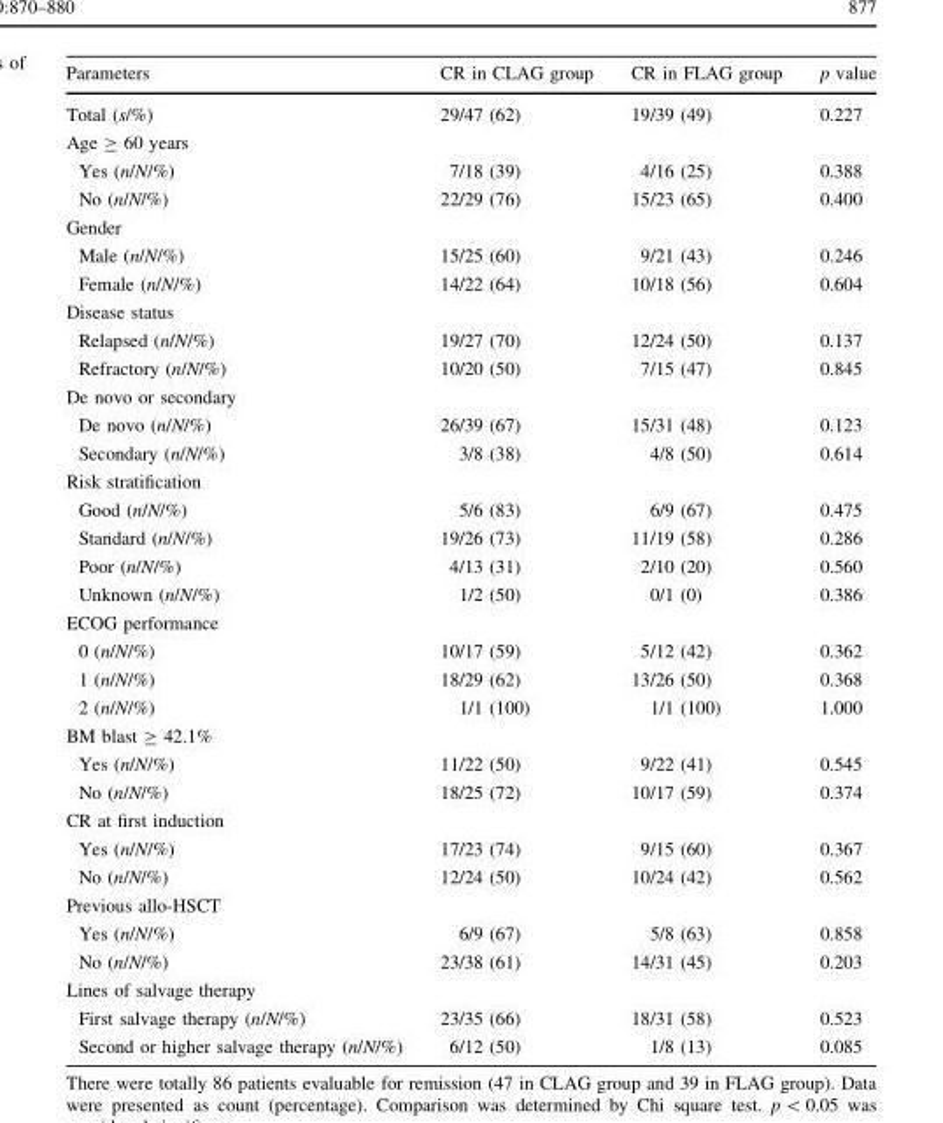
<table><thead><tr><td>Parameters</td><td>CR in CLAG group</td><td>CR in FLAG group</td><td>p value</td></tr></thead><tbody><tr><td>Total (s/%)</td><td>29/47 (62)</td><td>19/39 (49)</td><td>0.227</td></tr><tr><td colspan="4">Age ≥ 60 years</td></tr><tr><td>Yes (n/N/%)</td><td>7/18 (39)</td><td>4/16 (25)</td><td>0.388</td></tr><tr><td>No (n/N/%)</td><td>22/29 (76)</td><td>15/23 (65)</td><td>0.400</td></tr><tr><td colspan="4">Gender</td></tr><tr><td>Male (n/N/%)</td><td>15/25 (60)</td><td>9/21 (43)</td><td>0.246</td></tr><tr><td>Female (n/N/%)</td><td>14/22 (64)</td><td>10/18 (56)</td><td>0.604</td></tr><tr><td colspan="4">Disease status</td></tr><tr><td>Relapsed (n/N/%)</td><td>19/27 (70)</td><td>12/24 (50)</td><td>0.137</td></tr><tr><td>Refractory (n/N/%)</td><td>10/20 (50)</td><td>7/15 (47)</td><td>0.845</td></tr><tr><td colspan="4">De novo or secondary</td></tr><tr><td>De novo (n/N/%)</td><td>26/39 (67)</td><td>15/31 (48)</td><td>0.123</td></tr><tr><td>Secondary (n/N/%)</td><td>3/8 (38)</td><td>4/8 (50)</td><td>0.614</td></tr><tr><td colspan="4">Risk stratification</td></tr><tr><td>Good (n/N/%)</td><td>5/6 (83)</td><td>6/9 (67)</td><td>0.475</td></tr><tr><td>Standard (n/N/%)</td><td>19/26 (73)</td><td>11/19 (58)</td><td>0.286</td></tr><tr><td>Poor (n/N/%)</td><td>4/13 (31)</td><td>2/10 (20)</td><td>0.560</td></tr><tr><td>Unknown (n/N/%)</td><td>1/2 (50)</td><td>0/1 (0)</td><td>0.386</td></tr><tr><td colspan="4">ECOG performance</td></tr><tr><td>0 (n/N/%)</td><td>10/17 (59)</td><td>5/12 (42)</td><td>0.362</td></tr><tr><td>1 (n/N/%)</td><td>18/29 (62)</td><td>13/26 (50)</td><td>0.368</td></tr><tr><td>2 (n/N/%)</td><td>1/1 (100)</td><td>1/1 (100)</td><td>1.000</td></tr><tr><td colspan="4">BM blast ≥ 42.1%</td></tr><tr><td>Yes (n/N/%)</td><td>11/22 (50)</td><td>9/22 (41)</td><td>0.545</td></tr><tr><td>No (n/N/%)</td><td>18/25 (72)</td><td>10/17 (59)</td><td>0.374</td></tr><tr><td colspan="4">CR at first induction</td></tr><tr><td>Yes (n/N/%)</td><td>17/23 (74)</td><td>9/15 (60)</td><td>0.367</td></tr><tr><td>No (n/N/%)</td><td>12/24 (50)</td><td>10/24 (42)</td><td>0.562</td></tr><tr><td colspan="4">Previous allo-HSCT</td></tr><tr><td>Yes (n/N/%)</td><td>6/9 (67)</td><td>5/8 (63)</td><td>0.858</td></tr><tr><td>No (n/N/%)</td><td>23/38 (61)</td><td>14/31 (45)</td><td>0.203</td></tr><tr><td colspan="4">Lines of salvage therapy</td></tr><tr><td>First salvage therapy (n/N/%)</td><td>23/35 (66)</td><td>18/31 (58)</td><td>0.523</td></tr><tr><td>Second or higher salvage therapy (n/N/%)</td><td>6/12 (50)</td><td>1/8 (13)</td><td>0.085</td></tr></tbody></table>